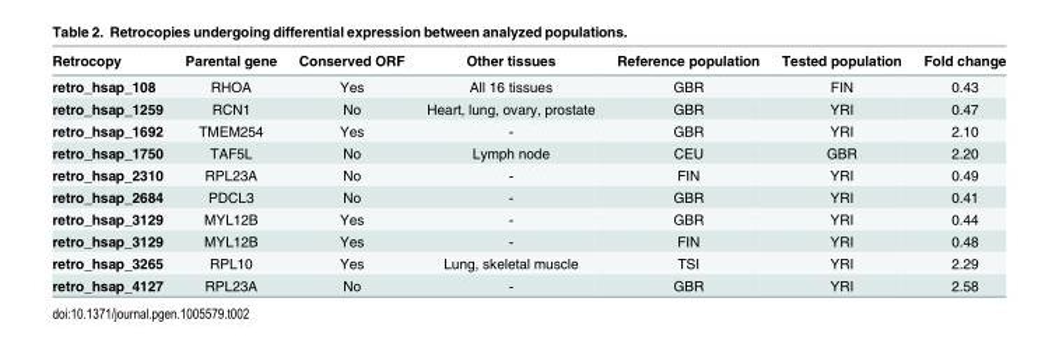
<table><thead><tr><td>Retrocopy</td><td>Parental gene</td><td>Conserved ORF</td><td>Other tissues</td><td>Reference population</td><td>Tested population</td><td>Fold change</td></tr></thead><tbody><tr><td>retro_hsap_108</td><td>RHOA</td><td>Yes</td><td>All 16 tissues</td><td>GBR</td><td>FIN</td><td>0.43</td></tr><tr><td>retro_hsap_1259</td><td>RCN1</td><td>No</td><td>Heart, lung, ovary, prostate</td><td>GBR</td><td>YRI</td><td>0.47</td></tr><tr><td>retro_hsap_1692</td><td>TMEM254</td><td>Yes</td><td>-</td><td>GBR</td><td>YRI</td><td>2.10</td></tr><tr><td>retro_hsap_1750</td><td>TAF5L</td><td>No</td><td>Lymph node</td><td>CEU</td><td>GBR</td><td>2.20</td></tr><tr><td>retro_hsap_2310</td><td>RPL23A</td><td>No</td><td>-</td><td>FIN</td><td>YRI</td><td>0.49</td></tr><tr><td>retro_hsap_2684</td><td>PDCL3</td><td>No</td><td>-</td><td>GBR</td><td>YRI</td><td>0.41</td></tr><tr><td>retro_hsap_3129</td><td>MYL12B</td><td>Yes</td><td>-</td><td>GBR</td><td>YRI</td><td>0.44</td></tr><tr><td>retro_hsap_3129</td><td>MYL12B</td><td>Yes</td><td>-</td><td>FIN</td><td>YRI</td><td>0.48</td></tr><tr><td>retro_hsap_3265</td><td>RPL10</td><td>Yes</td><td>Lung, skeletal muscle</td><td>TSI</td><td>YRI</td><td>2.29</td></tr><tr><td>retro_hsap_4127</td><td>RPL23A</td><td>No</td><td>-</td><td>GBR</td><td>YRI</td><td>2.58</td></tr></tbody></table>